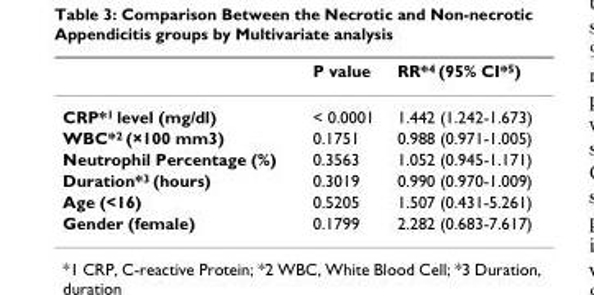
<table><thead><tr><td></td><td>P value</td><td>RR*<sup>4</sup> (95% CI*<sup>5</sup>)</td></tr></thead><tbody><tr><td>CRP*<sup>1</sup> level (mg/dl)</td><td>&lt; 0.0001</td><td>1.442 (1.242-1.673)</td></tr><tr><td>WBC*<sup>2</sup> (×100 mm3)</td><td>0.1751</td><td>0.988 (0.971-1.005)</td></tr><tr><td>Neutrophil Percentage (%)</td><td>0.3563</td><td>1.052 (0.945-1.171)</td></tr><tr><td>Duration*<sup>3</sup> (hours)</td><td>0.3019</td><td>0.990 (0.970-1.009)</td></tr><tr><td>Age (&lt;16)</td><td>0.5205</td><td>1.507 (0.431-5.261)</td></tr><tr><td>Gender (female)</td><td>0.1799</td><td>2.282 (0.683-7.617)</td></tr></tbody></table>